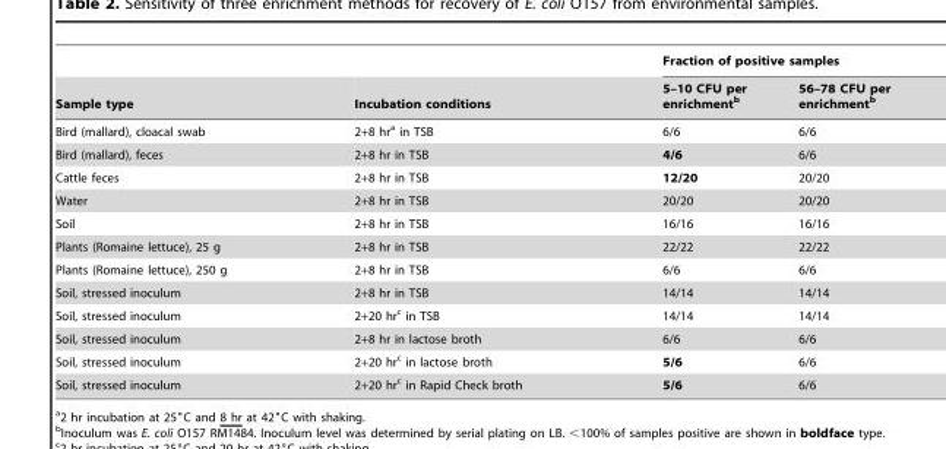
<table><thead><tr><td rowspan="2">Sample type</td><td rowspan="2">Incubation conditions</td><td colspan="2">Fraction of positive samples</td></tr><tr><td>5–10 CFU per enrichment<sup>b</sup></td><td>56–78 CFU per enrichment<sup>b</sup></td></tr></thead><tbody><tr><td>Bird (mallard), cloacal swab</td><td>2+8 hr<sup>a</sup> in TSB</td><td>6/6</td><td>6/6</td></tr><tr><td>Bird (mallard), feces</td><td>2+8 hr in TSB</td><td>4/6</td><td>6/6</td></tr><tr><td>Cattle feces</td><td>2+8 hr in TSB</td><td>12/20</td><td>20/20</td></tr><tr><td>Water</td><td>2+8 hr in TSB</td><td>20/20</td><td>20/20</td></tr><tr><td>Soil</td><td>2+8 hr in TSB</td><td>16/16</td><td>16/16</td></tr><tr><td>Plants (Romaine lettuce), 25 g</td><td>2+8 hr in TSB</td><td>22/22</td><td>22/22</td></tr><tr><td>Plants (Romaine lettuce), 250 g</td><td>2+8 hr in TSB</td><td>6/6</td><td>6/6</td></tr><tr><td>Soil, stressed inoculum</td><td>2+8 hr in TSB</td><td>14/14</td><td>14/14</td></tr><tr><td>Soil, stressed inoculum</td><td>2+20 hr<sup>c</sup> in TSB</td><td>14/14</td><td>14/14</td></tr><tr><td>Soil, stressed inoculum</td><td>2+8 hr in lactose broth</td><td>6/6</td><td>6/6</td></tr><tr><td>Soil, stressed inoculum</td><td>2+20 hr<sup>c</sup> in lactose broth</td><td>5/6</td><td>6/6</td></tr><tr><td>Soil, stressed inoculum</td><td>2+20 hr<sup>c</sup> in Rapid Check broth</td><td>5/6</td><td>6/6</td></tr></tbody></table>